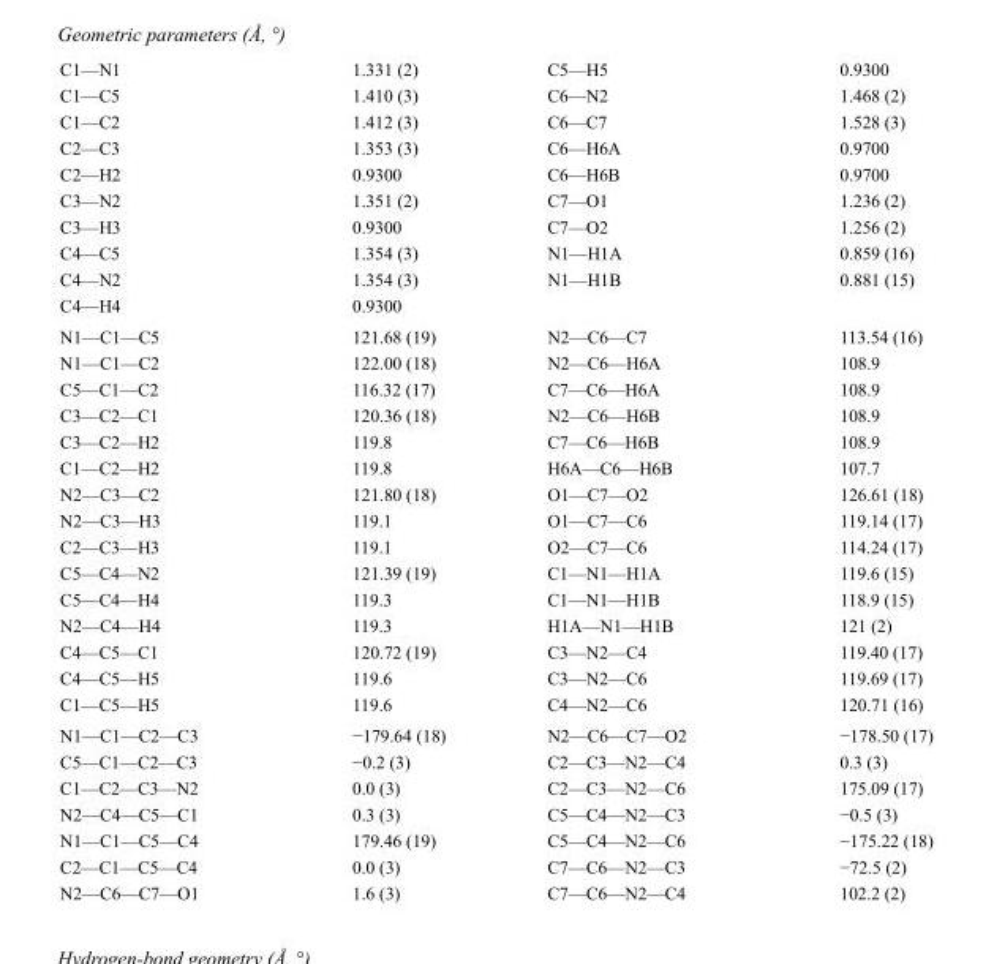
<table><tbody><tr><td>C1—N1</td><td>1.331 (2)</td><td>C5—H5</td><td>0.9300</td></tr><tr><td>C1—C5</td><td>1.410 (3)</td><td>C6—N2</td><td>1.468 (2)</td></tr><tr><td>C1—C2</td><td>1.412 (3)</td><td>C6—C7</td><td>1.528 (3)</td></tr><tr><td>C2—C3</td><td>1.353 (3)</td><td>C6—H6A</td><td>0.9700</td></tr><tr><td>C2—H2</td><td>0.9300</td><td>C6—H6B</td><td>0.9700</td></tr><tr><td>C3—N2</td><td>1.351 (2)</td><td>C7—O1</td><td>1.236 (2)</td></tr><tr><td>C3—H3</td><td>0.9300</td><td>C7—O2</td><td>1.256 (2)</td></tr><tr><td>C4—C5</td><td>1.354 (3)</td><td>N1—H1A</td><td>0.859 (16)</td></tr><tr><td>C4—N2</td><td>1.354 (3)</td><td>N1—H1B</td><td>0.881 (15)</td></tr><tr><td>C4—H4</td><td>0.9300</td><td></td><td></td></tr><tr><td>N1—C1—C5</td><td>121.68 (19)</td><td>N2—C6—C7</td><td>113.54 (16)</td></tr><tr><td>N1—C1—C2</td><td>122.00 (18)</td><td>N2—C6—H6A</td><td>108.9</td></tr><tr><td>C5—C1—C2</td><td>116.32 (17)</td><td>C7—C6—H6A</td><td>108.9</td></tr><tr><td>C3—C2—C1</td><td>120.36 (18)</td><td>N2—C6—H6B</td><td>108.9</td></tr><tr><td>C3—C2—H2</td><td>119.8</td><td>C7—C6—H6B</td><td>108.9</td></tr><tr><td>C1—C2—H2</td><td>119.8</td><td>H6A—C6—H6B</td><td>107.7</td></tr><tr><td>N2—C3—C2</td><td>121.80 (18)</td><td>O1—C7—O2</td><td>126.61 (18)</td></tr><tr><td>N2—C3—H3</td><td>119.1</td><td>O1—C7—C6</td><td>119.14 (17)</td></tr><tr><td>C2—C3—H3</td><td>119.1</td><td>O2—C7—C6</td><td>114.24 (17)</td></tr><tr><td>C5—C4—N2</td><td>121.39 (19)</td><td>C1—N1—H1A</td><td>119.6 (15)</td></tr><tr><td>C5—C4—H4</td><td>119.3</td><td>C1—N1—H1B</td><td>118.9 (15)</td></tr><tr><td>N2—C4—H4</td><td>119.3</td><td>H1A—N1—H1B</td><td>121 (2)</td></tr><tr><td>C4—C5—C1</td><td>120.72 (19)</td><td>C3—N2—C4</td><td>119.40 (17)</td></tr><tr><td>C4—C5—H5</td><td>119.6</td><td>C3—N2—C6</td><td>119.69 (17)</td></tr><tr><td>C1—C5—H5</td><td>119.6</td><td>C4—N2—C6</td><td>120.71 (16)</td></tr><tr><td>N1—C1—C2—C3</td><td>−179.64 (18)</td><td>N2—C6—C7—O2</td><td>−178.50 (17)</td></tr><tr><td>C5—C1—C2—C3</td><td>−0.2 (3)</td><td>C2—C3—N2—C4</td><td>0.3 (3)</td></tr><tr><td>C1—C2—C3—N2</td><td>0.0 (3)</td><td>C2—C3—N2—C6</td><td>175.09 (17)</td></tr><tr><td>N2—C4—C5—C1</td><td>0.3 (3)</td><td>C5—C4—N2—C3</td><td>−0.5 (3)</td></tr><tr><td>N1—C1—C5—C4</td><td>179.46 (19)</td><td>C5—C4—N2—C6</td><td>−175.22 (18)</td></tr><tr><td>C2—C1—C5—C4</td><td>0.0 (3)</td><td>C7—C6—N2—C3</td><td>−72.5 (2)</td></tr><tr><td>N2—C6—C7—O1</td><td>1.6 (3)</td><td>C7—C6—N2—C4</td><td>102.2 (2)</td></tr></tbody></table>